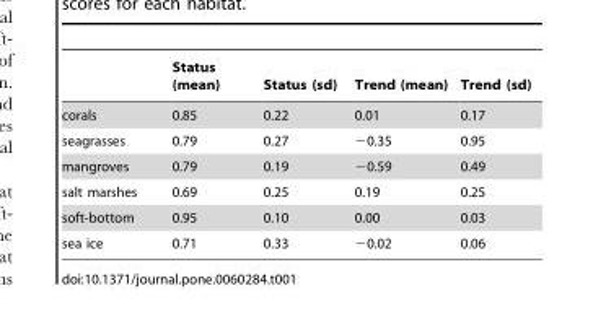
<table><thead><tr><td></td><td>Status (mean)</td><td>Status (sd)</td><td>Trend (mean)</td><td>Trend (sd)</td></tr></thead><tbody><tr><td>corals</td><td>0.85</td><td>0.22</td><td>0.01</td><td>0.17</td></tr><tr><td>seagrasses</td><td>0.79</td><td>0.27</td><td>−0.35</td><td>0.95</td></tr><tr><td>mangroves</td><td>0.79</td><td>0.19</td><td>−0.59</td><td>0.49</td></tr><tr><td>salt marshes</td><td>0.69</td><td>0.25</td><td>0.19</td><td>0.25</td></tr><tr><td>soft-bottom</td><td>0.95</td><td>0.10</td><td>0.00</td><td>0.03</td></tr><tr><td>sea ice</td><td>0.71</td><td>0.33</td><td>−0.02</td><td>0.06</td></tr></tbody></table>